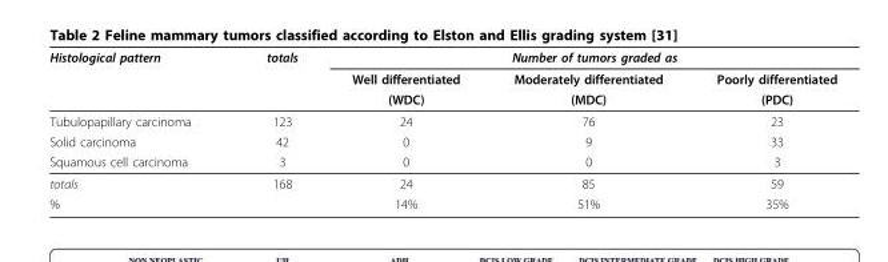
<table><thead><tr><td rowspan="3">Histological pattern</td><td rowspan="3">totals</td><td colspan="3">Number of tumors graded as</td></tr><tr><td rowspan="2">Well differentiated (WDC)</td><td rowspan="2">Moderately differentiated (MDC)</td><td rowspan="2">Poorly differentiated (PDC)</td></tr><tr></tr></thead><tbody><tr><td>Tubulopapillary carcinoma</td><td>123</td><td>24</td><td>76</td><td>23</td></tr><tr><td>Solid carcinoma</td><td>42</td><td>0</td><td>9</td><td>33</td></tr><tr><td>Squamous cell carcinoma</td><td>3</td><td>0</td><td>0</td><td>3</td></tr><tr><td>totals</td><td>168</td><td>24</td><td>85</td><td>59</td></tr><tr><td>%</td><td></td><td>14%</td><td>51%</td><td>35%</td></tr></tbody></table>